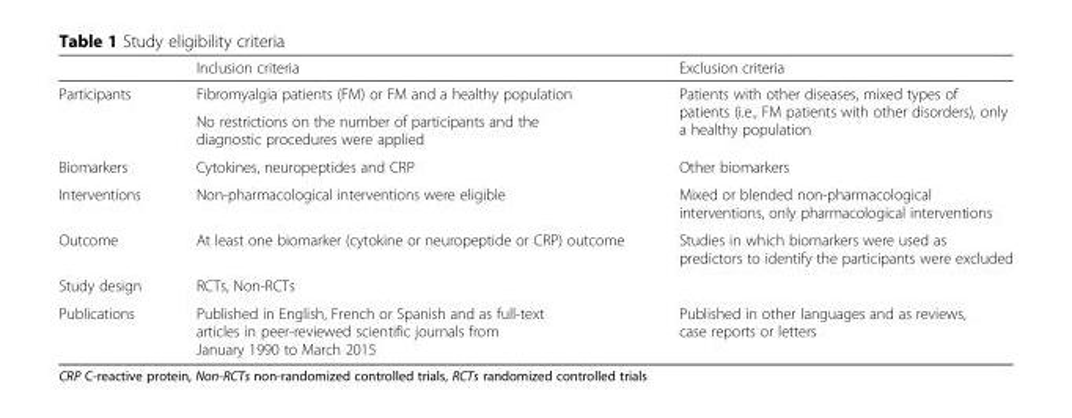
<table><thead><tr><td></td><td>Inclusion criteria</td><td>Exclusion criteria</td></tr></thead><tbody><tr><td rowspan="2">Participants</td><td>Fibromyalgia patients (FM) or FM and a healthy population</td><td rowspan="2">Patients with other diseases, mixed types of patients (i.e., FM patients with other disorders), only a healthy population</td></tr><tr><td>No restrictions on the number of participants and the diagnostic procedures were applied</td></tr><tr><td>Biomarkers</td><td>Cytokines, neuropeptides and CRP</td><td>Other biomarkers</td></tr><tr><td>Interventions</td><td>Non-pharmacological interventions were eligible</td><td>Mixed or blended non-pharmacological interventions, only pharmacological interventions</td></tr><tr><td>Outcome</td><td>At least one biomarker (cytokine or neuropeptide or CRP) outcome</td><td>Studies in which biomarkers were used as predictors to identify the participants were excluded</td></tr><tr><td>Study design</td><td>RCTs, Non-RCTs</td><td></td></tr><tr><td>Publications</td><td>Published in English, French or Spanish and as full-text articles in peer-reviewed scientific journals from January 1990 to March 2015</td><td>Published in other languages and as reviews, case reports or letters</td></tr></tbody></table>